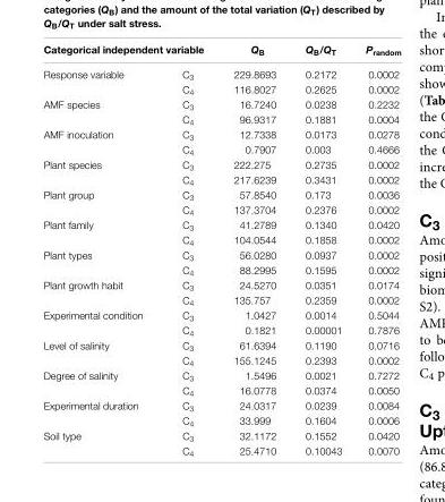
<table><thead><tr><td colspan="2">Categorical independent variable</td><td rowspan="2">Q<sub>B</sub> 229.8693</td><td rowspan="2">Q<sub>B</sub>/Q<sub>T</sub> 0.2172</td><td rowspan="2">P<sub>random</sub> 0.0002</td></tr><tr><td>Response variable</td><td>C<sub>3</sub></td></tr></thead><tbody><tr><td></td><td>C<sub>4</sub></td><td>116.8027</td><td>0.2625</td><td>0.0002</td></tr><tr><td rowspan="2">AMF species</td><td>C<sub>3</sub></td><td>16.7240</td><td>0.0238</td><td>0.2232</td></tr><tr><td>C<sub>4</sub></td><td>96.9317</td><td>0.1881</td><td>0.0004</td></tr><tr><td rowspan="2">AMF inoculation</td><td>C<sub>3</sub></td><td>12.7338</td><td>0.0173</td><td>0.0278</td></tr><tr><td>C<sub>4</sub></td><td>0.7907</td><td>0.003</td><td>0.4666</td></tr><tr><td rowspan="2">Plant species</td><td>C<sub>3</sub></td><td>222.275</td><td>0.2735</td><td>0.0002</td></tr><tr><td>C<sub>4</sub></td><td>217.6239</td><td>0.3431</td><td>0.0002</td></tr><tr><td rowspan="2">Plant group</td><td>C<sub>3</sub></td><td>57.8540</td><td>0.173</td><td>0.0036</td></tr><tr><td>C<sub>4</sub></td><td>137.3704</td><td>0.2376</td><td>0.0002</td></tr><tr><td rowspan="2">Plant family</td><td>C<sub>3</sub></td><td>41.2789</td><td>0.1340</td><td>0.0420</td></tr><tr><td>C<sub>4</sub></td><td>104.0544</td><td>0.1858</td><td>0.0002</td></tr><tr><td rowspan="2">Plant types</td><td>C<sub>3</sub></td><td>56.0280</td><td>0.0937</td><td>0.0002</td></tr><tr><td>C<sub>4</sub></td><td>88.2995</td><td>0.1595</td><td>0.0002</td></tr><tr><td rowspan="2">Plant growth habit</td><td>C<sub>3</sub></td><td>24.5270</td><td>0.0351</td><td>0.0174</td></tr><tr><td>C<sub>4</sub></td><td>135.757</td><td>0.2359</td><td>0.0002</td></tr><tr><td rowspan="2">Experimental condition</td><td>C<sub>3</sub></td><td>1.0427</td><td>0.0014</td><td>0.5044</td></tr><tr><td>C<sub>4</sub></td><td>0.1821</td><td>0.00001</td><td>0.7876</td></tr><tr><td rowspan="2">Level of salinity</td><td>C<sub>3</sub></td><td>61.6394</td><td>0.1190</td><td>0.0716</td></tr><tr><td>C<sub>4</sub></td><td>155.1245</td><td>0.2393</td><td>0.0002</td></tr><tr><td rowspan="2">Degree of salinity</td><td>C<sub>3</sub></td><td>1.5496</td><td>0.0021</td><td>0.7272</td></tr><tr><td>C<sub>4</sub></td><td>16.0778</td><td>0.0374</td><td>0.0050</td></tr><tr><td rowspan="2">Experimental duration</td><td>C<sub>3</sub></td><td>24.0317</td><td>0.0239</td><td>0.0084</td></tr><tr><td>C<sub>4</sub></td><td>33.999</td><td>0.1604</td><td>0.0006</td></tr><tr><td rowspan="2">Soil type</td><td>C<sub>3</sub></td><td>32.1172</td><td>0.1552</td><td>0.0420</td></tr><tr><td>C<sub>4</sub></td><td>25.4710</td><td>0.10043</td><td>0.0070</td></tr></tbody></table>